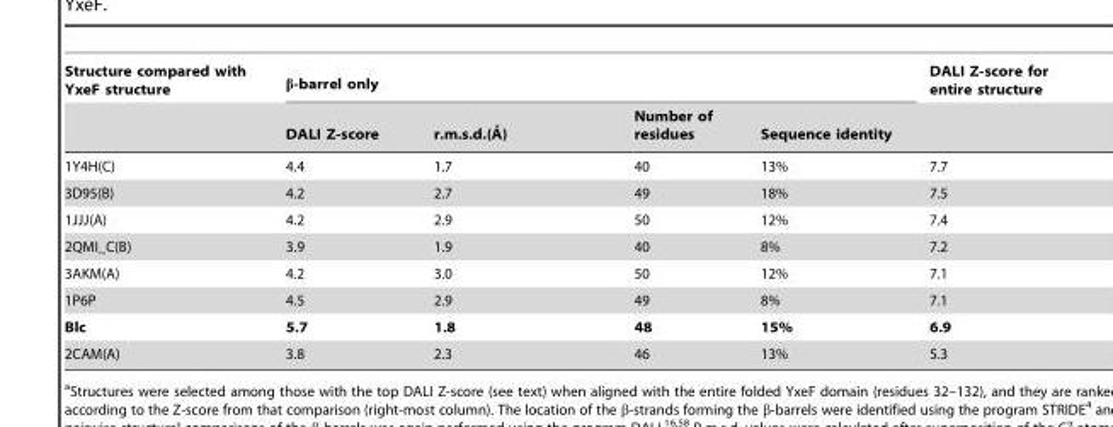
<table><thead><tr><td rowspan="2">Structure compared with YxeF structure</td><td colspan="4">β-barrel only</td><td rowspan="2">DALI Z-score for entire structure</td></tr><tr><td>DALI Z-score</td><td>r.m.s.d.(A˚ )</td><td>Number of residues</td><td>Sequence identity</td></tr></thead><tbody><tr><td>1Y4H(C)</td><td>4.4</td><td>1.7</td><td>40</td><td>13%</td><td>7.7</td></tr><tr><td>3D95(B)</td><td>4.2</td><td>2.7</td><td>49</td><td>18%</td><td>7.5</td></tr><tr><td>1JJJ(A)</td><td>4.2</td><td>2.9</td><td>50</td><td>12%</td><td>7.4</td></tr><tr><td>2QMI_C(B)</td><td>3.9</td><td>1.9</td><td>40</td><td>8%</td><td>7.2</td></tr><tr><td>3AKM(A)</td><td>4.2</td><td>3.0</td><td>50</td><td>12%</td><td>7.1</td></tr><tr><td>1P6P</td><td>4.5</td><td>2.9</td><td>49</td><td>8%</td><td>7.1</td></tr><tr><td>Blc</td><td>5.7</td><td>1.8</td><td>48</td><td>15%</td><td>6.9</td></tr><tr><td>2CAM(A)</td><td>3.8</td><td>2.3</td><td>46</td><td>13%</td><td>5.3</td></tr></tbody></table>